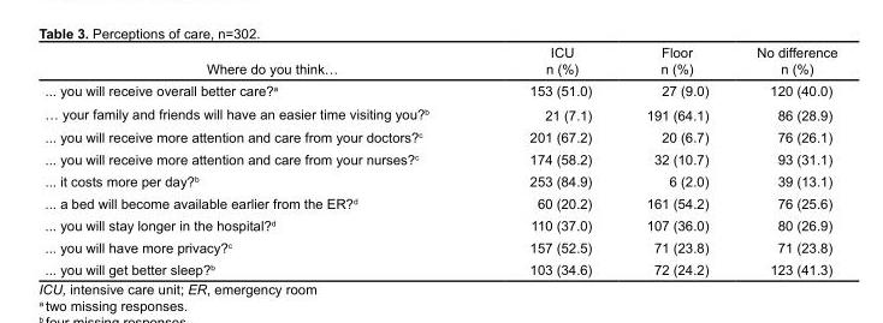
<table><thead><tr><td>Where do you think…</td><td>ICU n (%)</td><td>Floor n (%)</td><td>No difference n (%)</td></tr></thead><tbody><tr><td>... you will receive overall better care?<sup>a</sup></td><td>153 (51.0)</td><td>27 (9.0)</td><td>120 (40.0)</td></tr><tr><td>… your family and friends will have an easier time visiting you?<sup>b</sup></td><td>21 (7.1)</td><td>191 (64.1)</td><td>86 (28.9)</td></tr><tr><td>... you will receive more attention and care from your doctors?<sup>c</sup></td><td>201 (67.2)</td><td>20 (6.7)</td><td>76 (26.1)</td></tr><tr><td>... you will receive more attention and care from your nurses?<sup>c</sup></td><td>174 (58.2)</td><td>32 (10.7)</td><td>93 (31.1)</td></tr><tr><td>... it costs more per day?<sup>b</sup></td><td>253 (84.9)</td><td>6 (2.0)</td><td>39 (13.1)</td></tr><tr><td>... a bed will become available earlier from the ER?<sup>d</sup></td><td>60 (20.2)</td><td>161 (54.2)</td><td>76 (25.6)</td></tr><tr><td>... you will stay longer in the hospital?<sup>d</sup></td><td>110 (37.0)</td><td>107 (36.0)</td><td>80 (26.9)</td></tr><tr><td>... you will have more privacy?<sup>c</sup></td><td>157 (52.5)</td><td>71 (23.8)</td><td>71 (23.8)</td></tr><tr><td>... you will get better sleep?<sup>b</sup></td><td>103 (34.6)</td><td>72 (24.2)</td><td>123 (41.3)</td></tr></tbody></table>